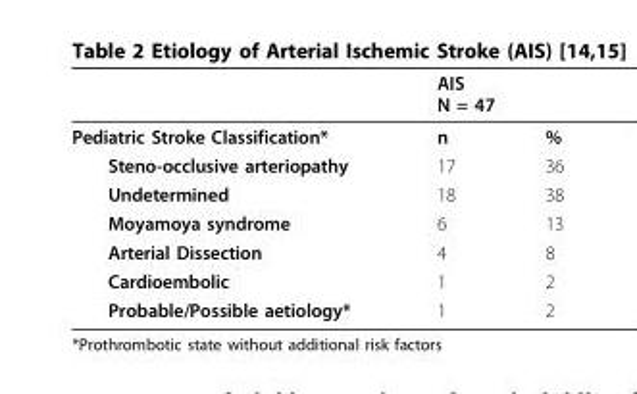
<table><thead><tr><td rowspan="2">Pediatric Stroke Classification*</td><td colspan="2">AIS N = 47</td></tr><tr><td>n</td><td>%</td></tr></thead><tbody><tr><td>Steno-occlusive arteriopathy</td><td>17</td><td>36</td></tr><tr><td>Undetermined</td><td>18</td><td>38</td></tr><tr><td>Moyamoya syndrome</td><td>6</td><td>13</td></tr><tr><td>Arterial Dissection</td><td>4</td><td>8</td></tr><tr><td>Cardioembolic</td><td>1</td><td>2</td></tr><tr><td>Probable/Possible aetiology*</td><td>1</td><td>2</td></tr></tbody></table>